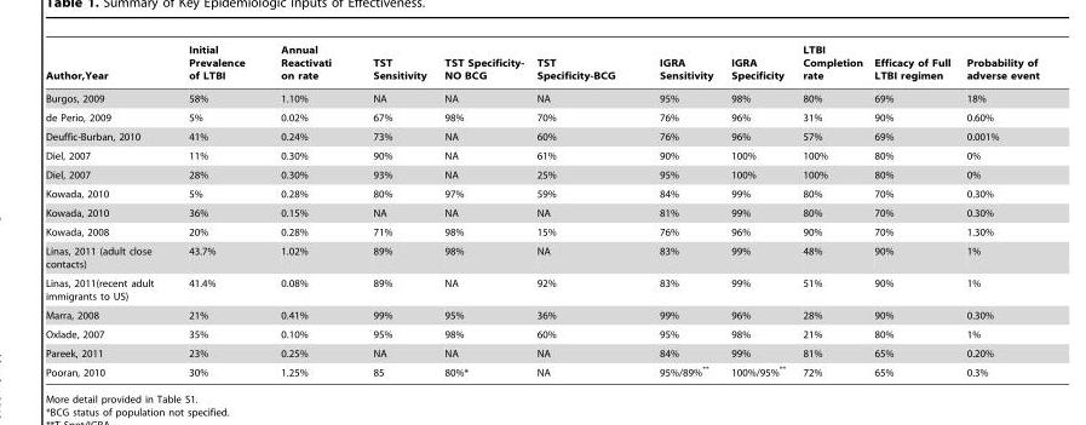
<table><thead><tr><td>Author,Year</td><td>Initial Prevalence of LTBI</td><td>Annual Reactivati on rate</td><td>TST Sensitivity</td><td>TST Specificity- NO BCG</td><td>TST Specificity-BCG</td><td>IGRA Sensitivity</td><td>IGRA Specificity</td><td>LTBI Completion rate</td><td>Efficacy of Full LTBI regimen</td><td>Probability of adverse event</td></tr></thead><tbody><tr><td>Burgos, 2009</td><td>58%</td><td>1.10%</td><td>NA</td><td>NA</td><td>NA</td><td>95%</td><td>98%</td><td>80%</td><td>69%</td><td>18%</td></tr><tr><td>de Perio, 2009</td><td>5%</td><td>0.02%</td><td>67%</td><td>98%</td><td>70%</td><td>76%</td><td>96%</td><td>31%</td><td>90%</td><td>0.60%</td></tr><tr><td>Deuffic-Burban, 2010</td><td>41%</td><td>0.24%</td><td>73%</td><td>NA</td><td>60%</td><td>76%</td><td>96%</td><td>57%</td><td>69%</td><td>0.001%</td></tr><tr><td>Diel, 2007</td><td>11%</td><td>0.30%</td><td>90%</td><td>NA</td><td>61%</td><td>90%</td><td>100%</td><td>100%</td><td>80%</td><td>0%</td></tr><tr><td>Diel, 2007</td><td>28%</td><td>0.30%</td><td>93%</td><td>NA</td><td>25%</td><td>95%</td><td>100%</td><td>100%</td><td>80%</td><td>0%</td></tr><tr><td>Kowada, 2010</td><td>5%</td><td>0.28%</td><td>80%</td><td>97%</td><td>59%</td><td>84%</td><td>99%</td><td>80%</td><td>70%</td><td>0.30%</td></tr><tr><td>Kowada, 2010</td><td>36%</td><td>0.15%</td><td>NA</td><td>NA</td><td>NA</td><td>81%</td><td>99%</td><td>80%</td><td>70%</td><td>0.30%</td></tr><tr><td>Kowada, 2008</td><td>20%</td><td>0.28%</td><td>71%</td><td>98%</td><td>15%</td><td>76%</td><td>96%</td><td>90%</td><td>70%</td><td>1.30%</td></tr><tr><td>Linas, 2011 (adult close contacts)</td><td>43.7%</td><td>1.02%</td><td>89%</td><td>98%</td><td>NA</td><td>83%</td><td>99%</td><td>48%</td><td>90%</td><td>1%</td></tr><tr><td>Linas, 2011(recent adult immigrants to US)</td><td>41.4%</td><td>0.08%</td><td>89%</td><td>NA</td><td>92%</td><td>83%</td><td>99%</td><td>51%</td><td>90%</td><td>1%</td></tr><tr><td>Marra, 2008</td><td>21%</td><td>0.41%</td><td>99%</td><td>95%</td><td>36%</td><td>99%</td><td>96%</td><td>28%</td><td>90%</td><td>0.30%</td></tr><tr><td>Oxlade, 2007</td><td>35%</td><td>0.10%</td><td>95%</td><td>98%</td><td>60%</td><td>95%</td><td>98%</td><td>21%</td><td>80%</td><td>1%</td></tr><tr><td>Pareek, 2011</td><td>23%</td><td>0.25%</td><td>NA</td><td>NA</td><td>NA</td><td>84%</td><td>99%</td><td>81%</td><td>65%</td><td>0.20%</td></tr><tr><td>Pooran, 2010</td><td>30%</td><td>1.25%</td><td>85</td><td>80%*</td><td>NA</td><td>95%/89%**</td><td>100%/95%**</td><td>72%</td><td>65%</td><td>0.3%</td></tr></tbody></table>